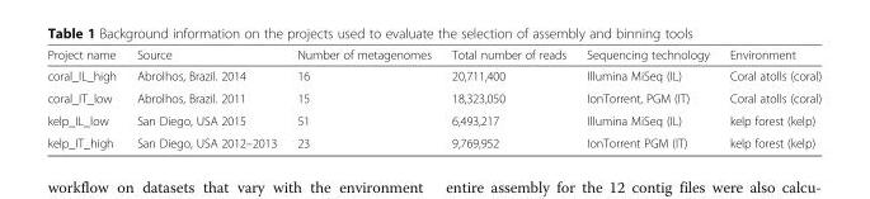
<table><thead><tr><td>Project name</td><td>Source</td><td>Number of metagenomes</td><td>Total number of reads</td><td>Sequencing technology</td><td>Environment</td></tr></thead><tbody><tr><td>coral_IL_high</td><td>Abrolhos, Brazil. 2014</td><td>16</td><td>20,711,400</td><td>Illumina MiSeq (IL)</td><td>Coral atolls (coral)</td></tr><tr><td>coral_IT_low</td><td>Abrolhos, Brazil. 2011</td><td>15</td><td>18,323,050</td><td>IonTorrent, PGM (IT)</td><td>Coral atolls (coral)</td></tr><tr><td>kelp_IL_low</td><td>San Diego, USA 2015</td><td>51</td><td>6,493,217</td><td>Illumina MiSeq (IL)</td><td>kelp forest (kelp)</td></tr><tr><td>kelp_IT_high</td><td>San Diego, USA 2012–2013</td><td>23</td><td>9,769,952</td><td>IonTorrent PGM (IT)</td><td>kelp forest (kelp)</td></tr></tbody></table>